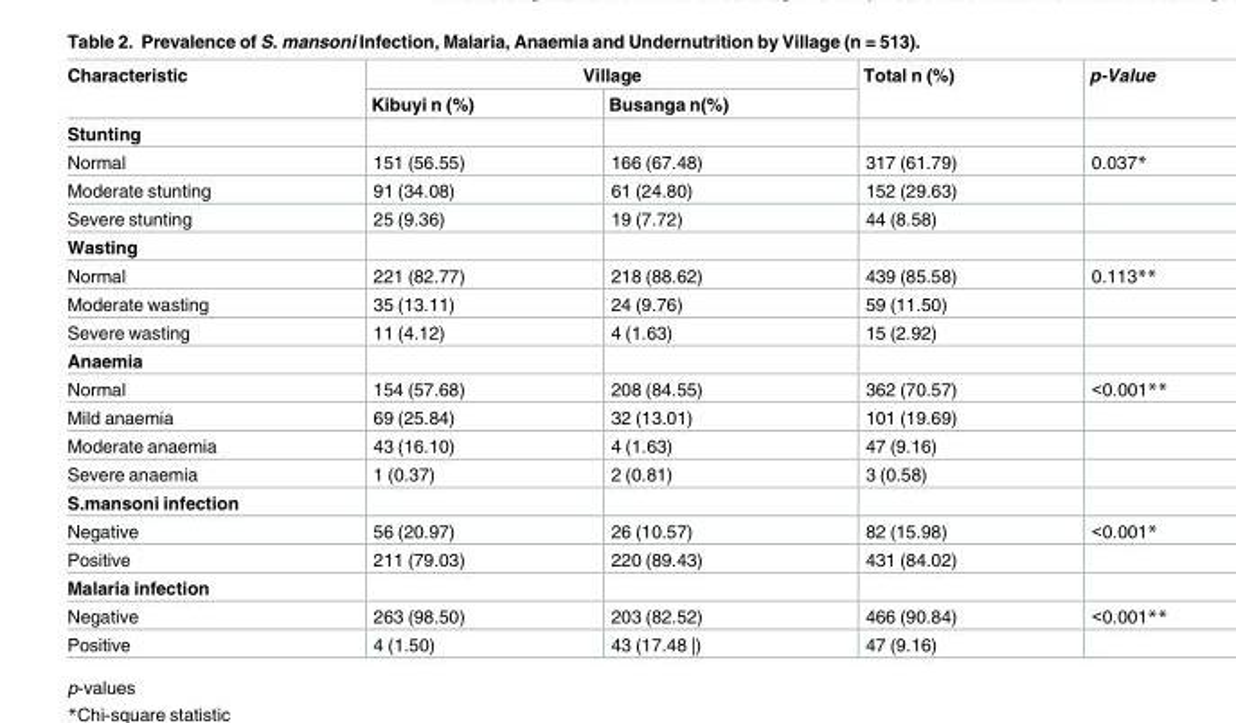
<table><thead><tr><td rowspan="2">Characteristic</td><td colspan="2">Village</td><td rowspan="2">Total n (%)</td><td rowspan="2">p-Value</td></tr><tr><td>Kibuyi n (%)</td><td>Busanga n(%)</td></tr></thead><tbody><tr><td colspan="5">Stunting</td></tr><tr><td>Normal</td><td>151 (56.55)</td><td>166 (67.48)</td><td>317 (61.79)</td><td>0.037*</td></tr><tr><td>Moderate stunting</td><td>91 (34.08)</td><td>61 (24.80)</td><td>152 (29.63)</td><td></td></tr><tr><td>Severe stunting</td><td>25 (9.36)</td><td>19 (7.72)</td><td>44 (8.58)</td><td></td></tr><tr><td colspan="5">Wasting</td></tr><tr><td>Normal</td><td>221 (82.77)</td><td>218 (88.62)</td><td>439 (85.58)</td><td>0.113**</td></tr><tr><td>Moderate wasting</td><td>35 (13.11)</td><td>24 (9.76)</td><td>59 (11.50)</td><td></td></tr><tr><td>Severe wasting</td><td>11 (4.12)</td><td>4 (1.63)</td><td>15 (2.92)</td><td></td></tr><tr><td colspan="5">Anaemia</td></tr><tr><td>Normal</td><td>154 (57.68)</td><td>208 (84.55)</td><td>362 (70.57)</td><td>&lt;0.001**</td></tr><tr><td>Mild anaemia</td><td>69 (25.84)</td><td>32 (13.01)</td><td>101 (19.69)</td><td></td></tr><tr><td>Moderate anaemia</td><td>43 (16.10)</td><td>4 (1.63)</td><td>47 (9.16)</td><td></td></tr><tr><td>Severe anaemia</td><td>1 (0.37)</td><td>2 (0.81)</td><td>3 (0.58)</td><td></td></tr><tr><td colspan="5">S.mansoni infection</td></tr><tr><td>Negative</td><td>56 (20.97)</td><td>26 (10.57)</td><td>82 (15.98)</td><td>&lt;0.001*</td></tr><tr><td>Positive</td><td>211 (79.03)</td><td>220 (89.43)</td><td>431 (84.02)</td><td></td></tr><tr><td colspan="5">Malaria infection</td></tr><tr><td>Negative</td><td>263 (98.50)</td><td>203 (82.52)</td><td>466 (90.84)</td><td>&lt;0.001**</td></tr><tr><td>Positive</td><td>4 (1.50)</td><td>43 (17.48 |)</td><td>47 (9.16)</td><td></td></tr></tbody></table>